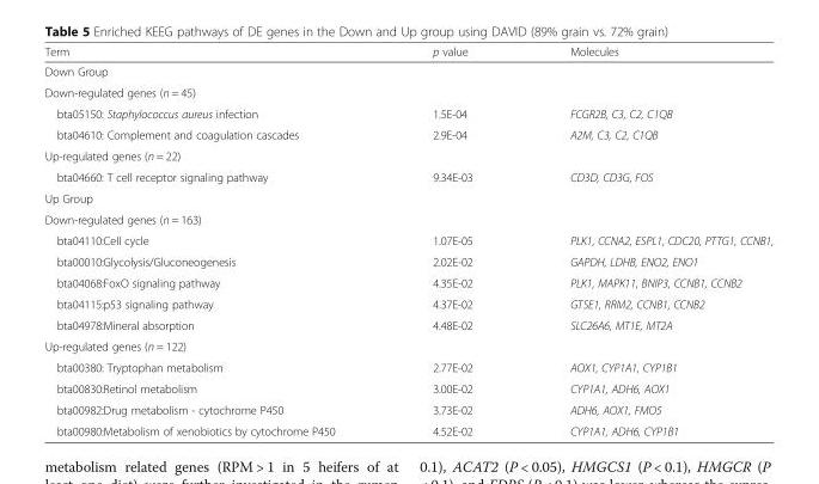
<table><thead><tr><td>Term</td><td>p value</td><td>Molecules</td></tr></thead><tbody><tr><td colspan="3">Down Group</td></tr><tr><td colspan="3">Down-regulated genes (n = 45)</td></tr><tr><td>bta05150: Staphylococcus aureus infection</td><td>1.5E-04</td><td>FCGR2B, C3, C2, C1QB</td></tr><tr><td>bta04610: Complement and coagulation cascades</td><td>2.9E-04</td><td>A2M, C3, C2, C1QB</td></tr><tr><td colspan="3">Up-regulated genes (n = 22)</td></tr><tr><td>bta04660: T cell receptor signaling pathway</td><td>9.34E-03</td><td>CD3D, CD3G, FOS</td></tr><tr><td colspan="3">Up Group</td></tr><tr><td colspan="3">Down-regulated genes (n = 163)</td></tr><tr><td>bta04110:Cell cycle</td><td>1.07E-05</td><td>PLK1, CCNA2, ESPL1, CDC20, PTTG1, CCNB1,</td></tr><tr><td>bta00010:Glycolysis/Gluconeogenesis</td><td>2.02E-02</td><td>GAPDH, LDHB, ENO2, ENO1</td></tr><tr><td>bta04068:FoxO signaling pathway</td><td>4.35E-02</td><td>PLK1, MAPK11, BNIP3, CCNB1, CCNB2</td></tr><tr><td>bta04115:p53 signaling pathway</td><td>4.37E-02</td><td>GTSE1, RRM2, CCNB1, CCNB2</td></tr><tr><td>bta04978:Mineral absorption</td><td>4.48E-02</td><td>SLC26A6, MT1E, MT2A</td></tr><tr><td colspan="3">Up-regulated genes (n = 122)</td></tr><tr><td>bta00380: Tryptophan metabolism</td><td>2.77E-02</td><td>AOX1, CYP1A1, CYP1B1</td></tr><tr><td>bta00830:Retinol metabolism</td><td>3.00E-02</td><td>CYP1A1, ADH6, AOX1</td></tr><tr><td>bta00982:Drug metabolism - cytochrome P450</td><td>3.73E-02</td><td>ADH6, AOX1, FMO5</td></tr><tr><td>bta00980:Metabolism of xenobiotics by cytochrome P450</td><td>4.52E-02</td><td>CYP1A1, ADH6, CYP1B1</td></tr></tbody></table>